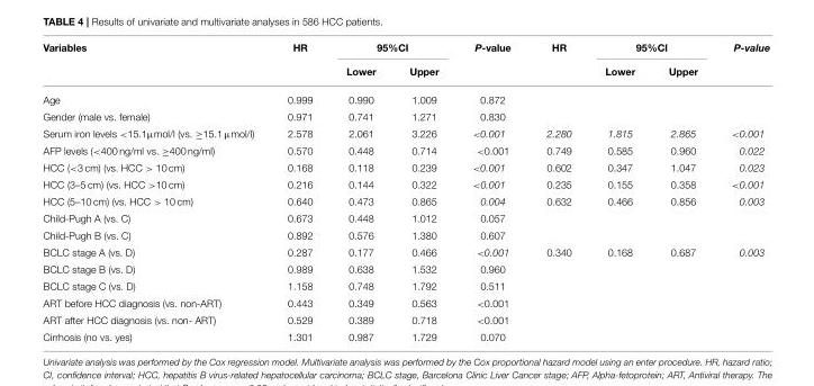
<table><thead><tr><td rowspan="2">Variables</td><td rowspan="2">HR</td><td colspan="2">95%CI</td><td rowspan="2">P-value</td><td rowspan="2">HR</td><td colspan="2">95%CI</td><td rowspan="2">P-value</td></tr><tr><td>Lower</td><td>Upper</td><td>Lower</td><td>Upper</td></tr></thead><tbody><tr><td>Age</td><td>0.999</td><td>0.990</td><td>1.009</td><td>0.872</td><td></td><td></td><td></td><td></td></tr><tr><td>Gender (male vs. female)</td><td>0.971</td><td>0.741</td><td>1.271</td><td>0.830</td><td></td><td></td><td></td><td></td></tr><tr><td>Serum iron levels &lt;15.1µmol/l (vs. ≥15.1 µmol/l)</td><td>2.578</td><td>2.061</td><td>3.226</td><td>&lt;0.001</td><td>2.280</td><td>1.815</td><td>2.865</td><td>&lt;0.001</td></tr><tr><td>AFP levels (&lt;400 ng/ml vs. ≥400 ng/ml)</td><td>0.570</td><td>0.448</td><td>0.714</td><td>&lt;0.001</td><td>0.749</td><td>0.585</td><td>0.960</td><td>0.022</td></tr><tr><td>HCC (&lt;3 cm) (vs. HCC &gt; 10 cm)</td><td>0.168</td><td>0.118</td><td>0.239</td><td>&lt;0.001</td><td>0.602</td><td>0.347</td><td>1.047</td><td>0.023</td></tr><tr><td>HCC (3–5 cm) (vs. HCC &gt;10 cm)</td><td>0.216</td><td>0.144</td><td>0.322</td><td>&lt;0.001</td><td>0.235</td><td>0.155</td><td>0.358</td><td>&lt;0.001</td></tr><tr><td>HCC (5–10 cm) (vs. HCC &gt; 10 cm)</td><td>0.640</td><td>0.473</td><td>0.865</td><td>0.004</td><td>0.632</td><td>0.466</td><td>0.856</td><td>0.003</td></tr><tr><td>Child-Pugh A (vs. C)</td><td>0.673</td><td>0.448</td><td>1.012</td><td>0.057</td><td></td><td></td><td></td><td></td></tr><tr><td>Child-Pugh B (vs. C)</td><td>0.892</td><td>0.576</td><td>1.380</td><td>0.607</td><td></td><td></td><td></td><td></td></tr><tr><td>BCLC stage A (vs. D)</td><td>0.287</td><td>0.177</td><td>0.466</td><td>&lt;0.001</td><td>0.340</td><td>0.168</td><td>0.687</td><td>0.003</td></tr><tr><td>BCLC stage B (vs. D)</td><td>0.989</td><td>0.638</td><td>1.532</td><td>0.960</td><td></td><td></td><td></td><td></td></tr><tr><td>BCLC stage C (vs. D)</td><td>1.158</td><td>0.748</td><td>1.792</td><td>0.511</td><td></td><td></td><td></td><td></td></tr><tr><td>ART before HCC diagnosis (vs. non-ART)</td><td>0.443</td><td>0.349</td><td>0.563</td><td>&lt;0.001</td><td></td><td></td><td></td><td></td></tr><tr><td>ART after HCC diagnosis (vs. non- ART)</td><td>0.529</td><td>0.389</td><td>0.718</td><td>&lt;0.001</td><td></td><td></td><td></td><td></td></tr><tr><td>Cirrhosis (no vs. yes)</td><td>1.301</td><td>0.987</td><td>1.729</td><td>0.070</td><td></td><td></td><td></td><td></td></tr></tbody></table>